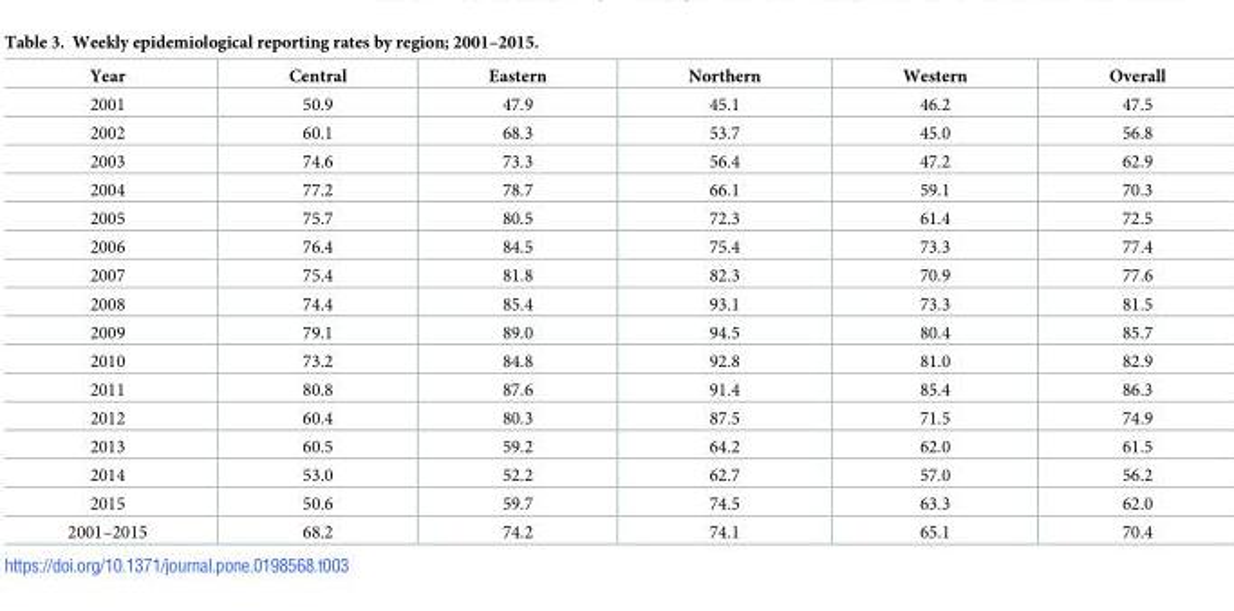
<table><thead><tr><td>Year</td><td>Central</td><td>Eastern</td><td>Northern</td><td>Western</td><td>Overall</td></tr></thead><tbody><tr><td>2001</td><td>50.9</td><td>47.9</td><td>45.1</td><td>46.2</td><td>47.5</td></tr><tr><td>2002</td><td>60.1</td><td>68.3</td><td>53.7</td><td>45.0</td><td>56.8</td></tr><tr><td>2003</td><td>74.6</td><td>73.3</td><td>56.4</td><td>47.2</td><td>62.9</td></tr><tr><td>2004</td><td>77.2</td><td>78.7</td><td>66.1</td><td>59.1</td><td>70.3</td></tr><tr><td>2005</td><td>75.7</td><td>80.5</td><td>72.3</td><td>61.4</td><td>72.5</td></tr><tr><td>2006</td><td>76.4</td><td>84.5</td><td>75.4</td><td>73.3</td><td>77.4</td></tr><tr><td>2007</td><td>75.4</td><td>81.8</td><td>82.3</td><td>70.9</td><td>77.6</td></tr><tr><td>2008</td><td>74.4</td><td>85.4</td><td>93.1</td><td>73.3</td><td>81.5</td></tr><tr><td>2009</td><td>79.1</td><td>89.0</td><td>94.5</td><td>80.4</td><td>85.7</td></tr><tr><td>2010</td><td>73.2</td><td>84.8</td><td>92.8</td><td>81.0</td><td>82.9</td></tr><tr><td>2011</td><td>80.8</td><td>87.6</td><td>91.4</td><td>85.4</td><td>86.3</td></tr><tr><td>2012</td><td>60.4</td><td>80.3</td><td>87.5</td><td>71.5</td><td>74.9</td></tr><tr><td>2013</td><td>60.5</td><td>59.2</td><td>64.2</td><td>62.0</td><td>61.5</td></tr><tr><td>2014</td><td>53.0</td><td>52.2</td><td>62.7</td><td>57.0</td><td>56.2</td></tr><tr><td>2015</td><td>50.6</td><td>59.7</td><td>74.5</td><td>63.3</td><td>62.0</td></tr><tr><td>2001–2015</td><td>68.2</td><td>74.2</td><td>74.1</td><td>65.1</td><td>70.4</td></tr></tbody></table>